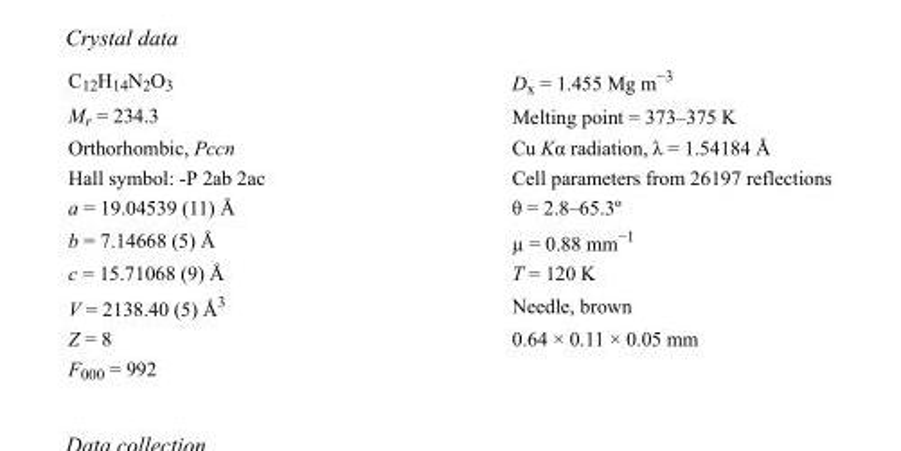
<table><tbody><tr><td>C<sub>12</sub>H<sub>14</sub>N<sub>2</sub>O<sub>3</sub></td><td>D<sub>x</sub> = 1.455 Mg m<sup>−3</sup></td></tr><tr><td>M<sub>r</sub> = 234.3</td><td>Melting point = 373–375 K</td></tr><tr><td>Orthorhombic, Pccn</td><td>Cu Kα radiation, λ = 1.54184 Å</td></tr><tr><td>Hall symbol: -P 2ab 2ac</td><td>Cell parameters from 26197 reflections</td></tr><tr><td>a = 19.04539 (11) Å</td><td>θ = 2.8–65.3º</td></tr><tr><td>b = 7.14668 (5) Å</td><td>µ = 0.88 mm<sup>−1</sup></td></tr><tr><td>c = 15.71068 (9) Å</td><td>T = 120 K</td></tr><tr><td>V = 2138.40 (5) Å<sup>3</sup></td><td>Needle, brown</td></tr><tr><td>Z = 8</td><td>0.64 × 0.11 × 0.05 mm</td></tr><tr><td>F000 = 992</td><td></td></tr></tbody></table>